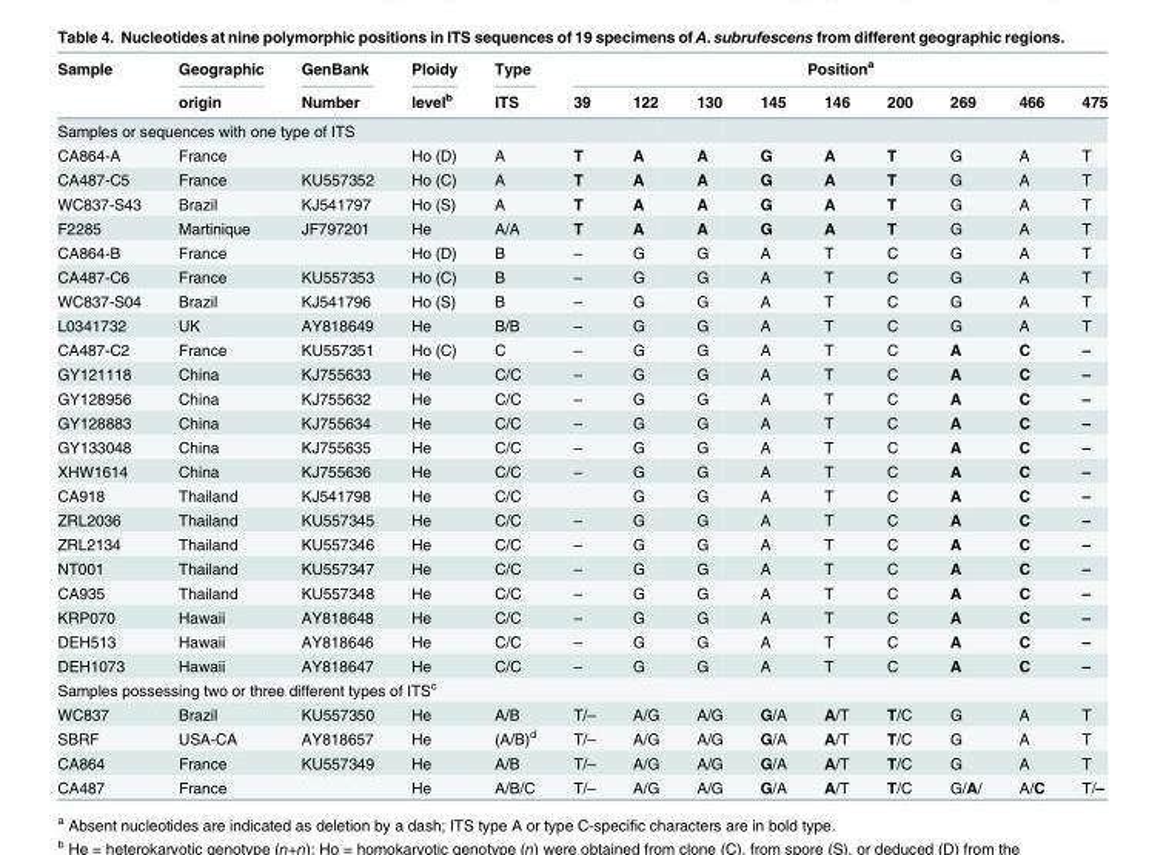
<table><thead><tr><td rowspan="2">Sample</td><td rowspan="2">Geographic origin</td><td rowspan="2">GenBank Number</td><td rowspan="2">Ploidy level<sup>b</sup></td><td rowspan="2">Type ITS</td><td colspan="9">Position<sup>a</sup></td></tr><tr><td>39</td><td>122</td><td>130</td><td>145</td><td>146</td><td>200</td><td>269</td><td>466</td><td>475</td></tr></thead><tbody><tr><td colspan="14">Samples or sequences with one type of ITS</td></tr><tr><td>CA864-A</td><td>France</td><td></td><td>Ho (D)</td><td>A</td><td>T</td><td>A</td><td>A</td><td>G</td><td>A</td><td>T</td><td>G</td><td>A</td><td>T</td></tr><tr><td>CA487-C5</td><td>France</td><td>KU557352</td><td>Ho (C)</td><td>A</td><td>T</td><td>A</td><td>A</td><td>G</td><td>A</td><td>T</td><td>G</td><td>A</td><td>T</td></tr><tr><td>WC837-S43</td><td>Brazil</td><td>KJ541797</td><td>Ho (S)</td><td>A</td><td>T</td><td>A</td><td>A</td><td>G</td><td>A</td><td>T</td><td>G</td><td>A</td><td>T</td></tr><tr><td>F2285</td><td>Martinique</td><td>JF797201</td><td>He</td><td>A/A</td><td>T</td><td>A</td><td>A</td><td>G</td><td>A</td><td>T</td><td>G</td><td>A</td><td>T</td></tr><tr><td>CA864-B</td><td>France</td><td></td><td>Ho (D)</td><td>B</td><td>–</td><td>G</td><td>G</td><td>A</td><td>T</td><td>C</td><td>G</td><td>A</td><td>T</td></tr><tr><td>CA487-C6</td><td>France</td><td>KU557353</td><td>Ho (C)</td><td>B</td><td>–</td><td>G</td><td>G</td><td>A</td><td>T</td><td>C</td><td>G</td><td>A</td><td>T</td></tr><tr><td>WC837-S04</td><td>Brazil</td><td>KJ541796</td><td>Ho (S)</td><td>B</td><td>–</td><td>G</td><td>G</td><td>A</td><td>T</td><td>C</td><td>G</td><td>A</td><td>T</td></tr><tr><td>L0341732</td><td>UK</td><td>AY818649</td><td>He</td><td>B/B</td><td>–</td><td>G</td><td>G</td><td>A</td><td>T</td><td>C</td><td>G</td><td>A</td><td>T</td></tr><tr><td>CA487-C2</td><td>France</td><td>KU557351</td><td>Ho (C)</td><td>C</td><td>–</td><td>G</td><td>G</td><td>A</td><td>T</td><td>C</td><td>A</td><td>C</td><td>–</td></tr><tr><td>GY121118</td><td>China</td><td>KJ755633</td><td>He</td><td>C/C</td><td>–</td><td>G</td><td>G</td><td>A</td><td>T</td><td>C</td><td>A</td><td>C</td><td>–</td></tr><tr><td>GY128956</td><td>China</td><td>KJ755632</td><td>He</td><td>C/C</td><td>–</td><td>G</td><td>G</td><td>A</td><td>T</td><td>C</td><td>A</td><td>C</td><td>–</td></tr><tr><td>GY128883</td><td>China</td><td>KJ755634</td><td>He</td><td>C/C</td><td>–</td><td>G</td><td>G</td><td>A</td><td>T</td><td>C</td><td>A</td><td>C</td><td>–</td></tr><tr><td>GY133048</td><td>China</td><td>KJ755635</td><td>He</td><td>C/C</td><td>–</td><td>G</td><td>G</td><td>A</td><td>T</td><td>C</td><td>A</td><td>C</td><td>–</td></tr><tr><td>XHW1614</td><td>China</td><td>KJ755636</td><td>He</td><td>C/C</td><td>–</td><td>G</td><td>G</td><td>A</td><td>T</td><td>C</td><td>A</td><td>C</td><td>–</td></tr><tr><td>CA918</td><td>Thailand</td><td>KJ541798</td><td>He</td><td>C/C</td><td></td><td>G</td><td>G</td><td>A</td><td>T</td><td>C</td><td>A</td><td>C</td><td>–</td></tr><tr><td>ZRL2036</td><td>Thailand</td><td>KU557345</td><td>He</td><td>C/C</td><td>–</td><td>G</td><td>G</td><td>A</td><td>T</td><td>C</td><td>A</td><td>C</td><td>–</td></tr><tr><td>ZRL2134</td><td>Thailand</td><td>KU557346</td><td>He</td><td>C/C</td><td>–</td><td>G</td><td>G</td><td>A</td><td>T</td><td>C</td><td>A</td><td>C</td><td>–</td></tr><tr><td>NT001</td><td>Thailand</td><td>KU557347</td><td>He</td><td>C/C</td><td>–</td><td>G</td><td>G</td><td>A</td><td>T</td><td>C</td><td>A</td><td>C</td><td>–</td></tr><tr><td>CA935</td><td>Thailand</td><td>KU557348</td><td>He</td><td>C/C</td><td>–</td><td>G</td><td>G</td><td>A</td><td>T</td><td>C</td><td>A</td><td>C</td><td>–</td></tr><tr><td>KRP070</td><td>Hawaii</td><td>AY818648</td><td>He</td><td>C/C</td><td>–</td><td>G</td><td>G</td><td>A</td><td>T</td><td>C</td><td>A</td><td>C</td><td>–</td></tr><tr><td>DEH513</td><td>Hawaii</td><td>AY818646</td><td>He</td><td>C/C</td><td>–</td><td>G</td><td>G</td><td>A</td><td>T</td><td>C</td><td>A</td><td>C</td><td>–</td></tr><tr><td>DEH1073</td><td>Hawaii</td><td>AY818647</td><td>He</td><td>C/C</td><td>–</td><td>G</td><td>G</td><td>A</td><td>T</td><td>C</td><td>A</td><td>C</td><td>–</td></tr><tr><td colspan="14">Samples possessing two or three different types of ITS<sup>c</sup></td></tr><tr><td>WC837</td><td>Brazil</td><td>KU557350</td><td>He</td><td>A/B</td><td>T/–</td><td>A/G</td><td>A/G</td><td>G/A</td><td>A/T</td><td>T/C</td><td>G</td><td>A</td><td>T</td></tr><tr><td>SBRF</td><td>USA-CA</td><td>AY818657</td><td>He</td><td>(A/B)<sup>d</sup></td><td>T/–</td><td>A/G</td><td>A/G</td><td>G/A</td><td>A/T</td><td>T/C</td><td>G</td><td>A</td><td>T</td></tr><tr><td>CA864</td><td>France</td><td>KU557349</td><td>He</td><td>A/B</td><td>T/–</td><td>A/G</td><td>A/G</td><td>G/A</td><td>A/T</td><td>T/C</td><td>G</td><td>A</td><td>T</td></tr><tr><td>CA487</td><td>France</td><td></td><td>He</td><td>A/B/C</td><td>T/–</td><td>A/G</td><td>A/G</td><td>G/A</td><td>A/T</td><td>T/C</td><td>G/A/</td><td>A/C</td><td>T/–</td></tr></tbody></table>